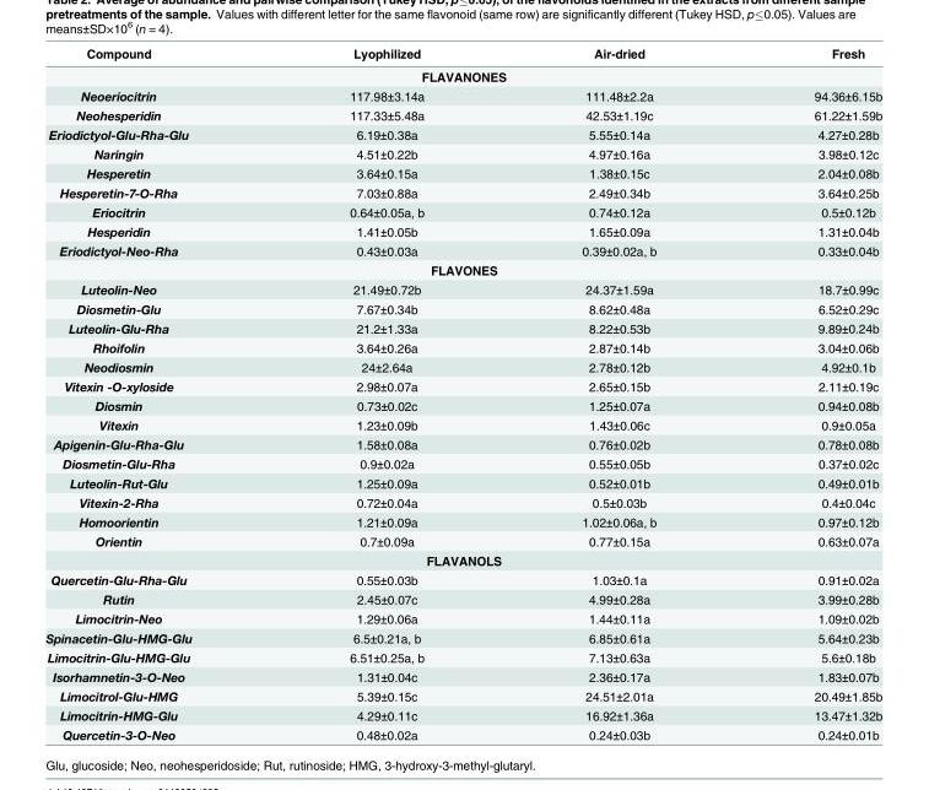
<table><thead><tr><td>Compound</td><td>Lyophilized</td><td>Air-dried</td><td>Fresh</td></tr></thead><tbody><tr><td colspan="4">FLAVANONES</td></tr><tr><td>Neoeriocitrin</td><td>117.98±3.14a</td><td>111.48±2.2a</td><td>94.36±6.15b</td></tr><tr><td>Neohesperidin</td><td>117.33±5.48a</td><td>42.53±1.19c</td><td>61.22±1.59b</td></tr><tr><td>Eriodictyol-Glu-Rha-Glu</td><td>6.19±0.38a</td><td>5.55±0.14a</td><td>4.27±0.28b</td></tr><tr><td>Naringin</td><td>4.51±0.22b</td><td>4.97±0.16a</td><td>3.98±0.12c</td></tr><tr><td>Hesperetin</td><td>3.64±0.15a</td><td>1.38±0.15c</td><td>2.04±0.08b</td></tr><tr><td>Hesperetin-7-O-Rha</td><td>7.03±0.88a</td><td>2.49±0.34b</td><td>3.64±0.25b</td></tr><tr><td>Eriocitrin</td><td>0.64±0.05a, b</td><td>0.74±0.12a</td><td>0.5±0.12b</td></tr><tr><td>Hesperidin</td><td>1.41±0.05b</td><td>1.65±0.09a</td><td>1.31±0.04b</td></tr><tr><td>Eriodictyol-Neo-Rha</td><td>0.43±0.03a</td><td>0.39±0.02a, b</td><td>0.33±0.04b</td></tr><tr><td colspan="4">FLAVONES</td></tr><tr><td>Luteolin-Neo</td><td>21.49±0.72b</td><td>24.37±1.59a</td><td>18.7±0.99c</td></tr><tr><td>Diosmetin-Glu</td><td>7.67±0.34b</td><td>8.62±0.48a</td><td>6.52±0.29c</td></tr><tr><td>Luteolin-Glu-Rha</td><td>21.2±1.33a</td><td>8.22±0.53b</td><td>9.89±0.24b</td></tr><tr><td>Rhoifolin</td><td>3.64±0.26a</td><td>2.87±0.14b</td><td>3.04±0.06b</td></tr><tr><td>Neodiosmin</td><td>24±2.64a</td><td>2.78±0.12b</td><td>4.92±0.1b</td></tr><tr><td>Vitexin -O-xyloside</td><td>2.98±0.07a</td><td>2.65±0.15b</td><td>2.11±0.19c</td></tr><tr><td>Diosmin</td><td>0.73±0.02c</td><td>1.25±0.07a</td><td>0.94±0.08b</td></tr><tr><td>Vitexin</td><td>1.23±0.09b</td><td>1.43±0.06c</td><td>0.9±0.05a</td></tr><tr><td>Apigenin-Glu-Rha-Glu</td><td>1.58±0.08a</td><td>0.76±0.02b</td><td>0.78±0.08b</td></tr><tr><td>Diosmetin-Glu-Rha</td><td>0.9±0.02a</td><td>0.55±0.05b</td><td>0.37±0.02c</td></tr><tr><td>Luteolin-Rut-Glu</td><td>1.25±0.09a</td><td>0.52±0.01b</td><td>0.49±0.01b</td></tr><tr><td>Vitexin-2-Rha</td><td>0.72±0.04a</td><td>0.5±0.03b</td><td>0.4±0.04c</td></tr><tr><td>Homoorientin</td><td>1.21±0.09a</td><td>1.02±0.06a, b</td><td>0.97±0.12b</td></tr><tr><td>Orientin</td><td>0.7±0.09a</td><td>0.77±0.15a</td><td>0.63±0.07a</td></tr><tr><td colspan="4">FLAVANOLS</td></tr><tr><td>Quercetin-Glu-Rha-Glu</td><td>0.55±0.03b</td><td>1.03±0.1a</td><td>0.91±0.02a</td></tr><tr><td>Rutin</td><td>2.45±0.07c</td><td>4.99±0.28a</td><td>3.99±0.28b</td></tr><tr><td>Limocitrin-Neo</td><td>1.29±0.06a</td><td>1.44±0.11a</td><td>1.09±0.02b</td></tr><tr><td>Spinacetin-Glu-HMG-Glu</td><td>6.5±0.21a, b</td><td>6.85±0.61a</td><td>5.64±0.23b</td></tr><tr><td>Limocitrin-Glu-HMG-Glu</td><td>6.51±0.25a, b</td><td>7.13±0.63a</td><td>5.6±0.18b</td></tr><tr><td>Isorhamnetin-3-O-Neo</td><td>1.31±0.04c</td><td>2.36±0.17a</td><td>1.83±0.07b</td></tr><tr><td>Limocitrol-Glu-HMG</td><td>5.39±0.15c</td><td>24.51±2.01a</td><td>20.49±1.85b</td></tr><tr><td>Limocitrin-HMG-Glu</td><td>4.29±0.11c</td><td>16.92±1.36a</td><td>13.47±1.32b</td></tr><tr><td>Quercetin-3-O-Neo</td><td>0.48±0.02a</td><td>0.24±0.03b</td><td>0.24±0.01b</td></tr></tbody></table>